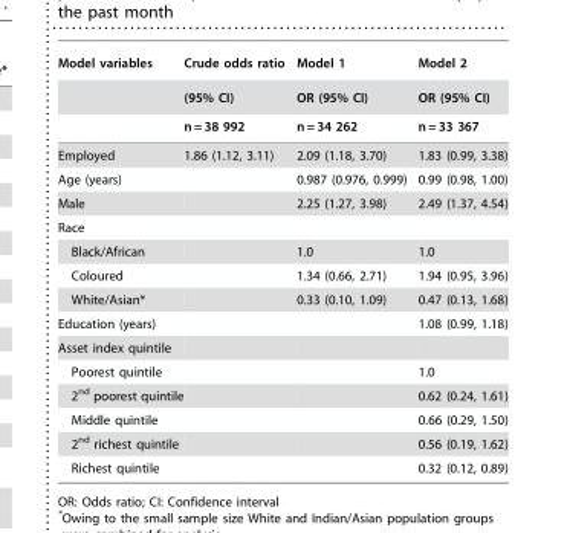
<table><thead><tr><td rowspan="3">Model variables</td><td rowspan="3">Crude odds ratio (95% CI) n = 38 992</td><td rowspan="3">Model 1 OR (95% CI) n = 34 262</td><td rowspan="3">Model 2 OR (95% CI) n = 33 367</td></tr><tr></tr><tr></tr></thead><tbody><tr><td>Employed</td><td>1.86 (1.12, 3.11)</td><td>2.09 (1.18, 3.70)</td><td>1.83 (0.99, 3.38)</td></tr><tr><td>Age (years)</td><td></td><td>0.987 (0.976, 0.999)</td><td>0.99 (0.98, 1.00)</td></tr><tr><td>Male</td><td></td><td>2.25 (1.27, 3.98)</td><td>2.49 (1.37, 4.54)</td></tr><tr><td colspan="4">Race</td></tr><tr><td>Black/African</td><td></td><td>1.0</td><td>1.0</td></tr><tr><td>Coloured</td><td></td><td>1.34 (0.66, 2.71)</td><td>1.94 (0.95, 3.96)</td></tr><tr><td>White/Asian*</td><td></td><td>0.33 (0.10, 1.09)</td><td>0.47 (0.13, 1.68)</td></tr><tr><td>Education (years)</td><td></td><td></td><td>1.08 (0.99, 1.18)</td></tr><tr><td colspan="4">Asset index quintile</td></tr><tr><td>Poorest quintile</td><td></td><td></td><td>1.0</td></tr><tr><td>2<sup>nd</sup> poorest quintile</td><td></td><td></td><td>0.62 (0.24, 1.61)</td></tr><tr><td>Middle quintile</td><td></td><td></td><td>0.66 (0.29, 1.50)</td></tr><tr><td>2<sup>nd</sup> richest quintile</td><td></td><td></td><td>0.56 (0.19, 1.62)</td></tr><tr><td>Richest quintile</td><td></td><td></td><td>0.32 (0.12, 0.89)</td></tr></tbody></table>